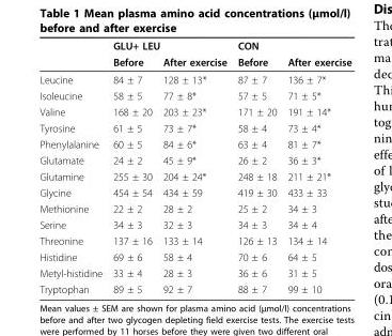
<table><thead><tr><td rowspan="2"></td><td colspan="2">GLU+ LEU</td><td colspan="2">CON</td></tr><tr><td>Before</td><td>After exercise</td><td>Before</td><td>After exercise</td></tr></thead><tbody><tr><td>Leucine</td><td>84 ± 7</td><td>128 ± 13*</td><td>87 ± 7</td><td>136 ± 7*</td></tr><tr><td>Isoleucine</td><td>58 ± 5</td><td>77 ± 8*</td><td>57 ± 5</td><td>71 ± 5*</td></tr><tr><td>Valine</td><td>168 ± 20</td><td>203 ± 23*</td><td>171 ± 20</td><td>191 ± 14*</td></tr><tr><td>Tyrosine</td><td>61 ± 5</td><td>73 ± 7*</td><td>58 ± 4</td><td>73 ± 4*</td></tr><tr><td>Phenylalanine</td><td>60 ± 5</td><td>84 ± 6*</td><td>63 ± 4</td><td>81 ± 7*</td></tr><tr><td>Glutamate</td><td>24 ± 2</td><td>45 ± 9*</td><td>26 ± 2</td><td>36 ± 3*</td></tr><tr><td>Glutamine</td><td>255 ± 30</td><td>204 ± 24*</td><td>248 ± 18</td><td>211 ± 21*</td></tr><tr><td>Glycine</td><td>454 ± 54</td><td>434 ± 59</td><td>419 ± 30</td><td>433 ± 33</td></tr><tr><td>Methionine</td><td>22 ± 2</td><td>28 ± 2</td><td>25 ± 2</td><td>34 ± 3</td></tr><tr><td>Serine</td><td>34 ± 3</td><td>32 ± 3</td><td>34 ± 3</td><td>34 ± 4</td></tr><tr><td>Threonine</td><td>137 ± 16</td><td>133 ± 14</td><td>126 ± 13</td><td>134 ± 14</td></tr><tr><td>Histidine</td><td>69 ± 6</td><td>58 ± 4</td><td>70 ± 6</td><td>64 ± 5</td></tr><tr><td>Metyl-histidine</td><td>33 ± 4</td><td>28 ± 3</td><td>36 ± 6</td><td>31 ± 5</td></tr><tr><td>Tryptophan</td><td>89 ± 5</td><td>92 ± 7</td><td>88 ± 7</td><td>99 ± 10</td></tr></tbody></table>